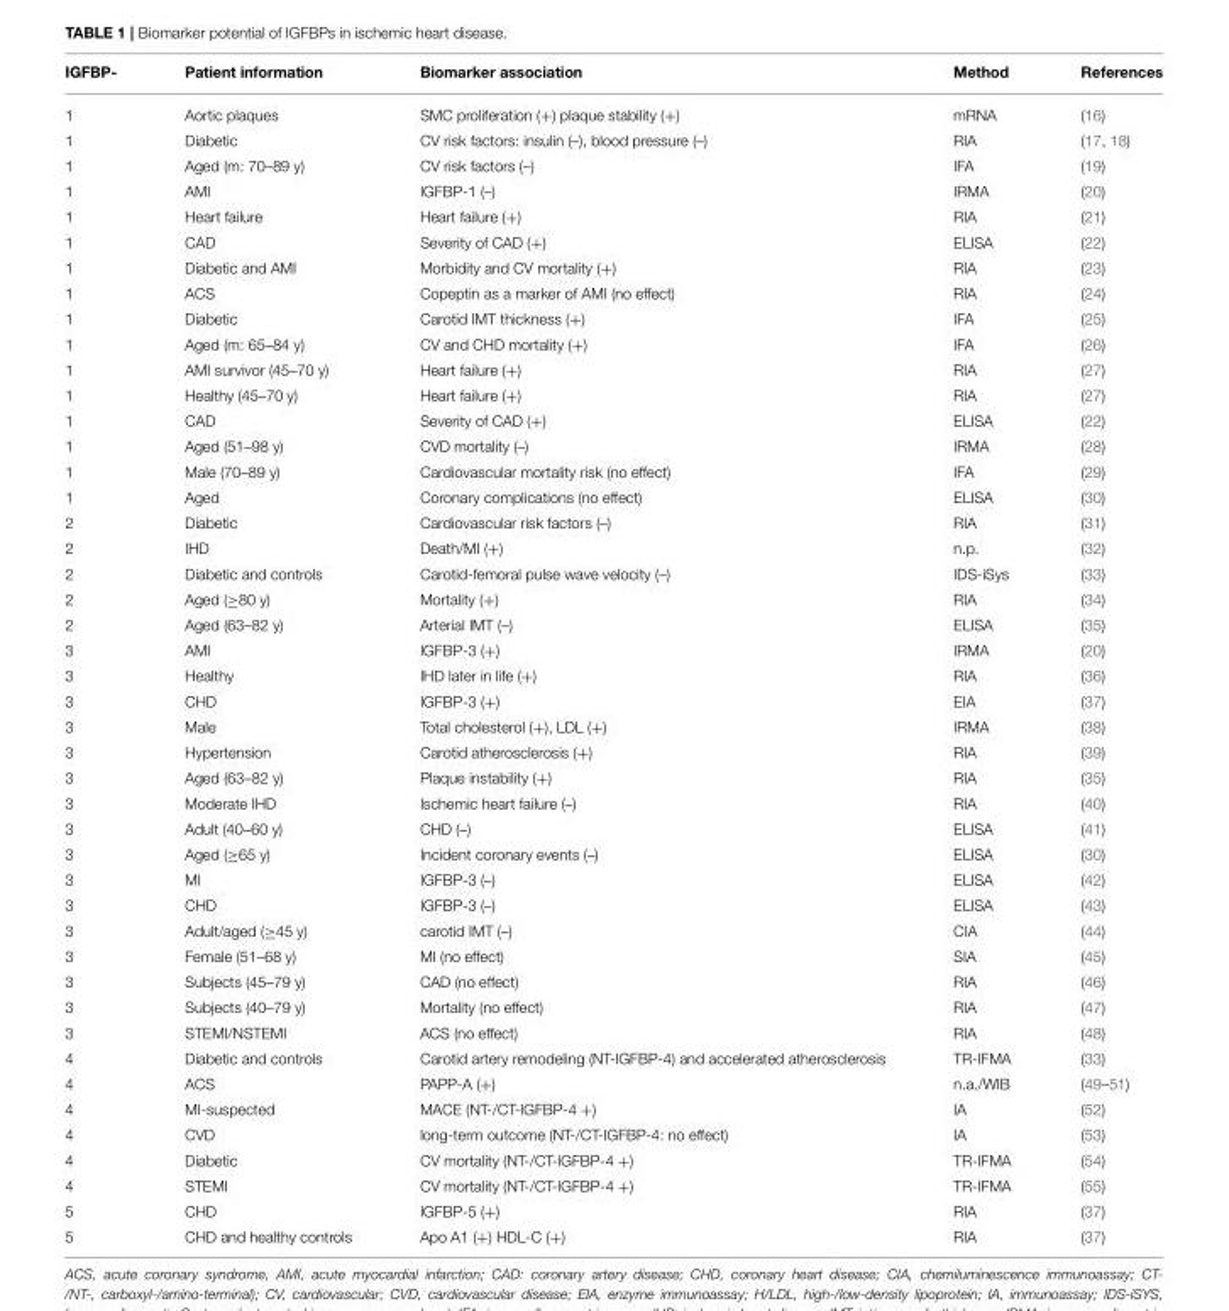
<table><thead><tr><td>IGFBP-</td><td>Patient information</td><td>Biomarker association</td><td>Method</td><td>References</td></tr></thead><tbody><tr><td>1</td><td>Aortic plaques</td><td>SMC proliferation (+) plaque stability (+)</td><td>mRNA</td><td>(16)</td></tr><tr><td>1</td><td>Diabetic</td><td>CV risk factors: insulin (–), blood pressure (–)</td><td>RIA</td><td>(17, 18)</td></tr><tr><td>1</td><td>Aged (m: 70–89 y)</td><td>CV risk factors (–)</td><td>IFA</td><td>(19)</td></tr><tr><td>1</td><td>AMI</td><td>IGFBP-1 (–)</td><td>IRMA</td><td>(20)</td></tr><tr><td>1</td><td>Heart failure</td><td>Heart failure (+)</td><td>RIA</td><td>(21)</td></tr><tr><td>1</td><td>CAD</td><td>Severity of CAD (+)</td><td>ELISA</td><td>(22)</td></tr><tr><td>1</td><td>Diabetic and AMI</td><td>Morbidity and CV mortality (+)</td><td>RIA</td><td>(23)</td></tr><tr><td>1</td><td>ACS</td><td>Copeptin as a marker of AMI (no effect)</td><td>RIA</td><td>(24)</td></tr><tr><td>1</td><td>Diabetic</td><td>Carotid IMT thickness (+)</td><td>IFA</td><td>(25)</td></tr><tr><td>1</td><td>Aged (m: 65–84 y)</td><td>CV and CHD mortality (+)</td><td>IFA</td><td>(26)</td></tr><tr><td>1</td><td>AMI survivor (45–70 y)</td><td>Heart failure (+)</td><td>RIA</td><td>(27)</td></tr><tr><td>1</td><td>Healthy (45–70 y)</td><td>Heart failure (+)</td><td>RIA</td><td>(27)</td></tr><tr><td>1</td><td>CAD</td><td>Severity of CAD (+)</td><td>ELISA</td><td>(22)</td></tr><tr><td>1</td><td>Aged (51–98 y)</td><td>CVD mortality (–)</td><td>IRMA</td><td>(28)</td></tr><tr><td>1</td><td>Male (70–89 y)</td><td>Cardiovascular mortality risk (no effect)</td><td>IFA</td><td>(29)</td></tr><tr><td>1</td><td>Aged</td><td>Coronary complications (no effect)</td><td>ELISA</td><td>(30)</td></tr><tr><td>2</td><td>Diabetic</td><td>Cardiovascular risk factors (–)</td><td>RIA</td><td>(31)</td></tr><tr><td>2</td><td>IHD</td><td>Death/MI (+)</td><td>n.p.</td><td>(32)</td></tr><tr><td>2</td><td>Diabetic and controls</td><td>Carotid-femoral pulse wave velocity (–)</td><td>IDS-iSys</td><td>(33)</td></tr><tr><td>2</td><td>Aged (≥80 y)</td><td>Mortality (+)</td><td>RIA</td><td>(34)</td></tr><tr><td>2</td><td>Aged (63–82 y)</td><td>Arterial IMT (–)</td><td>ELISA</td><td>(35)</td></tr><tr><td>3</td><td>AMI</td><td>IGFBP-3 (+)</td><td>IRMA</td><td>(20)</td></tr><tr><td>3</td><td>Healthy</td><td>IHD later in life (+)</td><td>RIA</td><td>(36)</td></tr><tr><td>3</td><td>CHD</td><td>IGFBP-3 (+)</td><td>EIA</td><td>(37)</td></tr><tr><td>3</td><td>Male</td><td>Total cholesterol (+), LDL (+)</td><td>IRMA</td><td>(38)</td></tr><tr><td>3</td><td>Hypertension</td><td>Carotid atherosclerosis (+)</td><td>RIA</td><td>(39)</td></tr><tr><td>3</td><td>Aged (63–82 y)</td><td>Plaque instability (+)</td><td>RIA</td><td>(35)</td></tr><tr><td>3</td><td>Moderate IHD</td><td>Ischemic heart failure (–)</td><td>RIA</td><td>(40)</td></tr><tr><td>3</td><td>Adult (40–60 y)</td><td>CHD (–)</td><td>ELISA</td><td>(41)</td></tr><tr><td>3</td><td>Aged (≥65 y)</td><td>Incident coronary events (–)</td><td>ELISA</td><td>(30)</td></tr><tr><td>3</td><td>MI</td><td>IGFBP-3 (–)</td><td>ELISA</td><td>(42)</td></tr><tr><td>3</td><td>CHD</td><td>IGFBP-3 (–)</td><td>ELISA</td><td>(43)</td></tr><tr><td>3</td><td>Adult/aged (≥45 y)</td><td>carotid IMT (–)</td><td>CIA</td><td>(44)</td></tr><tr><td>3</td><td>Female (51–68 y)</td><td>MI (no effect)</td><td>SIA</td><td>(45)</td></tr><tr><td>3</td><td>Subjects (45–79 y)</td><td>CAD (no effect)</td><td>RIA</td><td>(46)</td></tr><tr><td>3</td><td>Subjects (40–79 y)</td><td>Mortality (no effect)</td><td>RIA</td><td>(47)</td></tr><tr><td>3</td><td>STEMI/NSTEMI</td><td>ACS (no effect)</td><td>RIA</td><td>(48)</td></tr><tr><td>4</td><td>Diabetic and controls</td><td>Carotid artery remodeling (NT-IGFBP-4) and accelerated atherosclerosis</td><td>TR-IFMA</td><td>(33)</td></tr><tr><td>4</td><td>ACS</td><td>PAPP-A (+)</td><td>n.a./WIB</td><td>(49–51)</td></tr><tr><td>4</td><td>MI-suspected</td><td>MACE (NT-/CT-IGFBP-4 +)</td><td>IA</td><td>(52)</td></tr><tr><td>4</td><td>CVD</td><td>long-term outcome (NT-/CT-IGFBP-4: no effect)</td><td>IA</td><td>(53)</td></tr><tr><td>4</td><td>Diabetic</td><td>CV mortality (NT-/CT-IGFBP-4 +)</td><td>TR-IFMA</td><td>(54)</td></tr><tr><td>4</td><td>STEMI</td><td>CV mortality (NT-/CT-IGFBP-4 +)</td><td>TR-IFMA</td><td>(55)</td></tr><tr><td>5</td><td>CHD</td><td>IGFBP-5 (+)</td><td>RIA</td><td>(37)</td></tr><tr><td>5</td><td>CHD and healthy controls</td><td>Apo A1 (+) HDL-C (+)</td><td>RIA</td><td>(37)</td></tr></tbody></table>